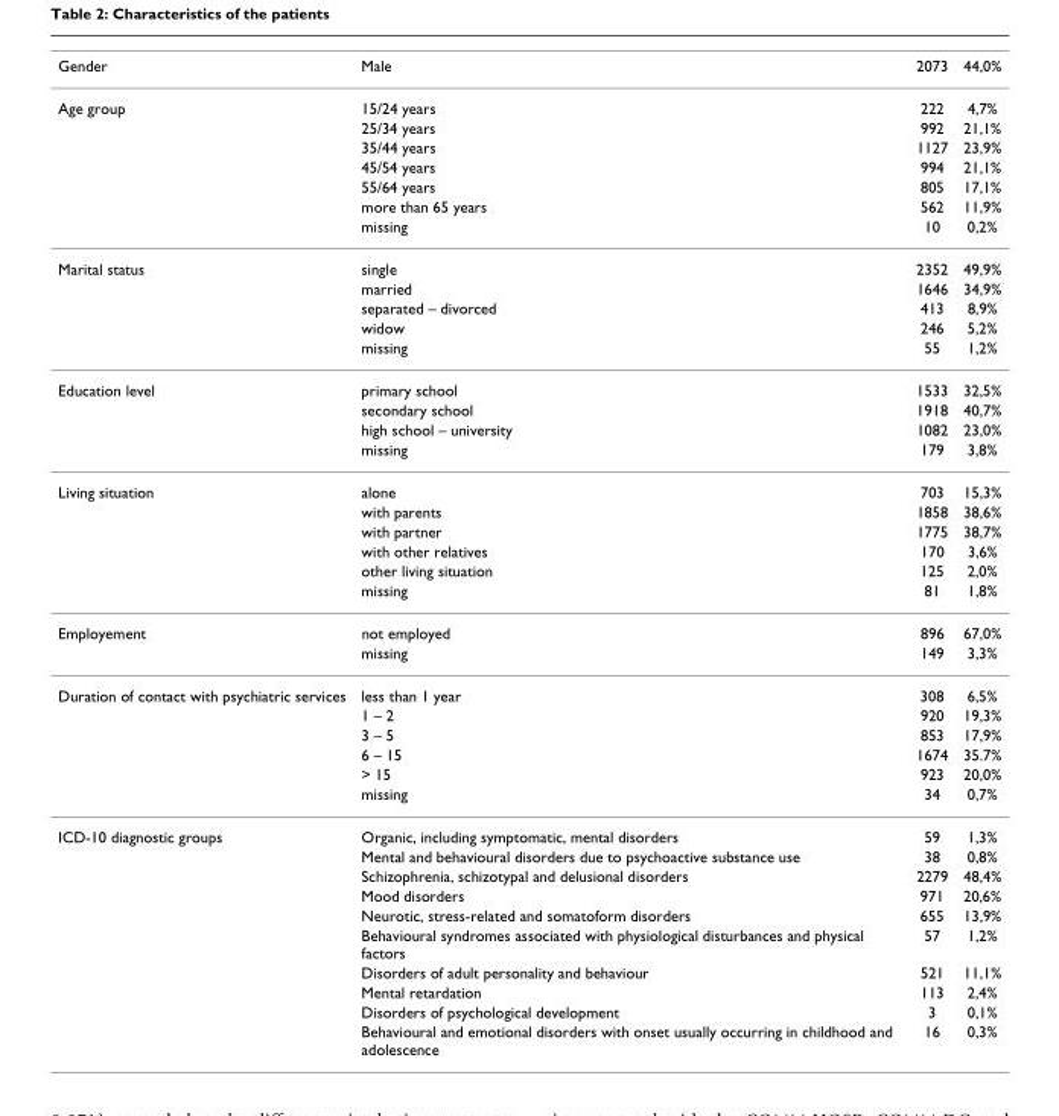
<table><tbody><tr><td>Gender</td><td>Male</td><td>2073</td><td>44,0%</td></tr><tr><td rowspan="7">Age group</td><td>15/24 years</td><td>222</td><td>4,7%</td></tr><tr><td>25/34 years</td><td>992</td><td>21,1%</td></tr><tr><td>35/44 years</td><td>1127</td><td>23,9%</td></tr><tr><td>45/54 years</td><td>994</td><td>21,1%</td></tr><tr><td>55/64 years</td><td>805</td><td>17,1%</td></tr><tr><td>more than 65 years</td><td>562</td><td>11,9%</td></tr><tr><td>missing</td><td>10</td><td>0,2%</td></tr><tr><td rowspan="5">Marital status</td><td>single</td><td>2352</td><td>49,9%</td></tr><tr><td>married</td><td>1646</td><td>34,9%</td></tr><tr><td>separated – divorced</td><td>413</td><td>8,9%</td></tr><tr><td>widow</td><td>246</td><td>5,2%</td></tr><tr><td>missing</td><td>55</td><td>1,2%</td></tr><tr><td rowspan="4">Education level</td><td>primary school</td><td>1533</td><td>32,5%</td></tr><tr><td>secondary school</td><td>1918</td><td>40,7%</td></tr><tr><td>high school – university</td><td>1082</td><td>23,0%</td></tr><tr><td>missing</td><td>179</td><td>3,8%</td></tr><tr><td rowspan="6">Living situation</td><td>alone</td><td>703</td><td>15,3%</td></tr><tr><td>with parents</td><td>1858</td><td>38,6%</td></tr><tr><td>with partner</td><td>1775</td><td>38,7%</td></tr><tr><td>with other relatives</td><td>170</td><td>3,6%</td></tr><tr><td>other living situation</td><td>125</td><td>2,0%</td></tr><tr><td>missing</td><td>81</td><td>1,8%</td></tr><tr><td rowspan="2">Employement</td><td>not employed</td><td>896</td><td>67,0%</td></tr><tr><td>missing</td><td>149</td><td>3,3%</td></tr><tr><td rowspan="6">Duration of contact with psychiatric services</td><td>less than 1 year</td><td>308</td><td>6,5%</td></tr><tr><td>1 – 2</td><td>920</td><td>19,3%</td></tr><tr><td>3 – 5</td><td>853</td><td>17,9%</td></tr><tr><td>6 – 15</td><td>1674</td><td>35.7%</td></tr><tr><td>&gt; 15</td><td>923</td><td>20,0%</td></tr><tr><td>missing</td><td>34</td><td>0,7%</td></tr><tr><td rowspan="10">ICD-10 diagnostic groups</td><td>Organic, including symptomatic, mental disorders</td><td>59</td><td>1,3%</td></tr><tr><td>Mental and behavioural disorders due to psychoactive substance use</td><td>38</td><td>0,8%</td></tr><tr><td>Schizophrenia, schizotypal and delusional disorders</td><td>2279</td><td>48,4%</td></tr><tr><td>Mood disorders</td><td>971</td><td>20,6%</td></tr><tr><td>Neurotic, stress-related and somatoform disorders</td><td>655</td><td>13,9%</td></tr><tr><td>Behavioural syndromes associated with physiological disturbances and physical factors</td><td>57</td><td>1,2%</td></tr><tr><td>Disorders of adult personality and behaviour</td><td>521</td><td>11,1%</td></tr><tr><td>Mental retardation</td><td>113</td><td>2,4%</td></tr><tr><td>Disorders of psychological development</td><td>3</td><td>0,1%</td></tr><tr><td>Behavioural and emotional disorders with onset usually occurring in childhood and adolescence</td><td>16</td><td>0,3%</td></tr></tbody></table>